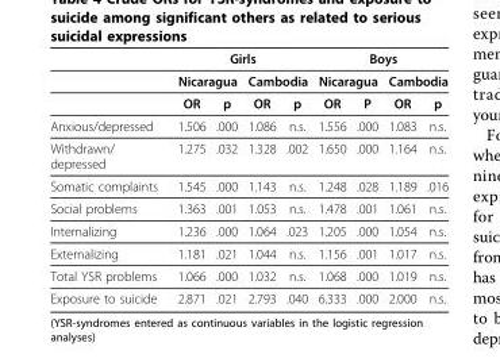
<table><thead><tr><td rowspan="3"></td><td colspan="4">Girls</td><td colspan="4">Boys</td></tr><tr><td colspan="2">Nicaragua</td><td colspan="2">Cambodia</td><td colspan="2">Nicaragua</td><td colspan="2">Cambodia</td></tr><tr><td>OR</td><td>p</td><td>OR</td><td>p</td><td>OR</td><td>P</td><td>OR</td><td>p</td></tr></thead><tbody><tr><td>Anxious/depressed</td><td>1.506</td><td>.000</td><td>1.086</td><td>n.s.</td><td>1.556</td><td>.000</td><td>1.083</td><td>n.s.</td></tr><tr><td>Withdrawn/ depressed</td><td>1.275</td><td>.032</td><td>1.328</td><td>.002</td><td>1.650</td><td>.000</td><td>1.164</td><td>n.s.</td></tr><tr><td>Somatic complaints</td><td>1.545</td><td>.000</td><td>1.143</td><td>n.s.</td><td>1.248</td><td>.028</td><td>1.189</td><td>.016</td></tr><tr><td>Social problems</td><td>1.363</td><td>.001</td><td>1.053</td><td>n.s.</td><td>1.478</td><td>.001</td><td>1.061</td><td>n.s.</td></tr><tr><td>Internalizing</td><td>1.236</td><td>.000</td><td>1.064</td><td>.023</td><td>1.205</td><td>.000</td><td>1.054</td><td>n.s.</td></tr><tr><td>Externalizing</td><td>1.181</td><td>.021</td><td>1.044</td><td>n.s.</td><td>1.156</td><td>.001</td><td>1.017</td><td>n.s.</td></tr><tr><td>Total YSR problems</td><td>1.066</td><td>.000</td><td>1.032</td><td>n.s.</td><td>1.068</td><td>.000</td><td>1.019</td><td>n.s.</td></tr><tr><td>Exposure to suicide</td><td>2.871</td><td>.021</td><td>2.793</td><td>.040</td><td>6.333</td><td>.000</td><td>2.000</td><td>n.s.</td></tr></tbody></table>